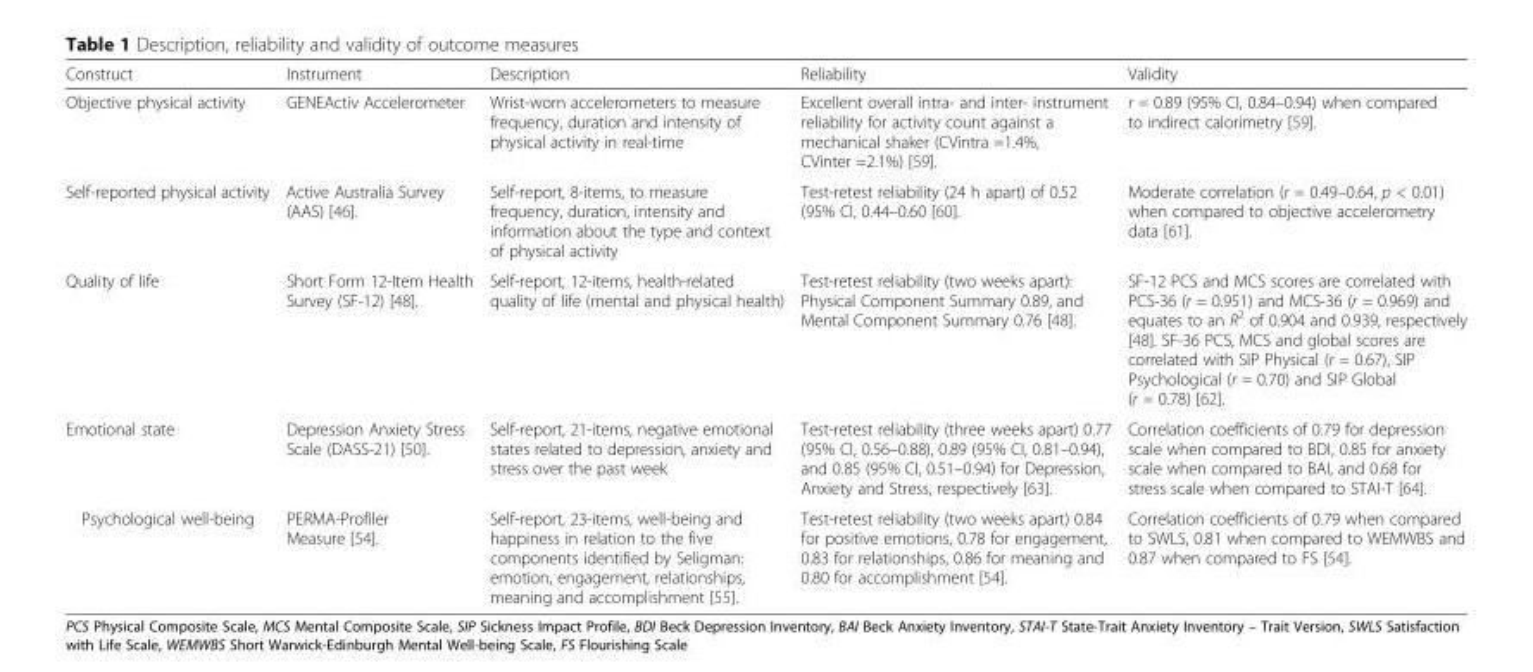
<table><thead><tr><td>Construct</td><td>Instrument</td><td>Description</td><td>Reliability</td><td>Validity</td></tr></thead><tbody><tr><td>Objective physical activity</td><td>GENEActiv Accelerometer</td><td>Wrist-worn accelerometers to measure frequency, duration and intensity of physical activity in real-time</td><td>Excellent overall intra- and inter- instrument reliability for activity count against a mechanical shaker (CVintra =1.4%, CVinter =2.1%) [59].</td><td>r = 0.89 (95% CI, 0.84–0.94) when compared to indirect calorimetry [59].</td></tr><tr><td>Self-reported physical activity</td><td>Active Australia Survey (AAS) [46].</td><td>Self-report, 8-items, to measure frequency, duration, intensity and information about the type and context of physical activity</td><td>Test-retest reliability (24 h apart) of 0.52 (95% CI, 0.44–0.60 [60].</td><td>Moderate correlation (r = 0.49–0.64, p &lt; 0.01) when compared to objective accelerometry data [61].</td></tr><tr><td>Quality of life</td><td>Short Form 12-Item Health Survey (SF-12) [48].</td><td>Self-report, 12-items, health-related quality of life (mental and physical health)</td><td>Test-retest reliability (two weeks apart): Physical Component Summary 0.89, and Mental Component Summary 0.76 [48].</td><td>SF-12 PCS and MCS scores are correlated with PCS-36 (r = 0.951) and MCS-36 (r = 0.969) and equates to an R<sup>2</sup> of 0.904 and 0.939, respectively [48]. SF-36 PCS, MCS and global scores are correlated with SIP Physical (r = 0.67), SIP Psychological (r = 0.70) and SIP Global (r = 0.78) [62].</td></tr><tr><td>Emotional state</td><td>Depression Anxiety Stress Scale (DASS-21) [50].</td><td>Self-report, 21-items, negative emotional states related to depression, anxiety and stress over the past week</td><td>Test-retest reliability (three weeks apart) 0.77 (95% CI, 0.56–0.88), 0.89 (95% CI, 0.81–0.94), and 0.85 (95% CI, 0.51–0.94) for Depression, Anxiety and Stress, respectively [63].</td><td>Correlation coefficients of 0.79 for depression scale when compared to BDI, 0.85 for anxiety scale when compared to BAI, and 0.68 for stress scale when compared to STAI-T [64].</td></tr><tr><td>Psychological well-being</td><td>PERMA-Profiler Measure [54].</td><td>Self-report, 23-items, well-being and happiness in relation to the five components identified by Seligman: emotion, engagement, relationships, meaning and accomplishment [55].</td><td>Test-retest reliability (two weeks apart) 0.84 for positive emotions, 0.78 for engagement, 0.83 for relationships, 0.86 for meaning and 0.80 for accomplishment [54].</td><td>Correlation coefficients of 0.79 when compared to SWLS, 0.81 when compared to WEMWBS and 0.87 when compared to FS [54].</td></tr></tbody></table>